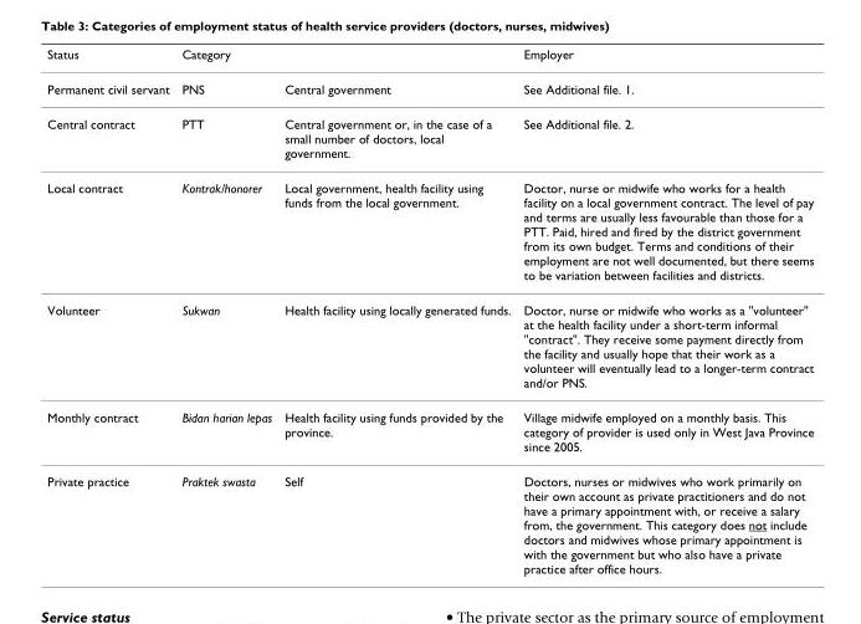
<table><thead><tr><td>Status</td><td>Category</td><td></td><td>Employer</td></tr></thead><tbody><tr><td>Permanent civil servant</td><td>PNS</td><td>Central government</td><td>See Additional file. 1.</td></tr><tr><td>Central contract</td><td>PTT</td><td>Central government or, in the case of a small number of doctors, local government.</td><td>See Additional file. 2.</td></tr><tr><td>Local contract</td><td>Kontrak/honorer</td><td>Local government, health facility using funds from the local government.</td><td>Doctor, nurse or midwife who works for a health facility on a local government contract. The level of pay and terms are usually less favourable than those for a PTT. Paid, hired and fired by the district government from its own budget. Terms and conditions of their employment are not well documented, but there seems to be variation between facilities and districts.</td></tr><tr><td>Volunteer</td><td>Sukwan</td><td>Health facility using locally generated funds.</td><td>Doctor, nurse or midwife who works as a &quot;volunteer&quot; at the health facility under a short-term informal &quot;contract&quot;. They receive some payment directly from the facility and usually hope that their work as a volunteer will eventually lead to a longer-term contract and/or PNS.</td></tr><tr><td>Monthly contract</td><td>Bidan harian lepas</td><td>Health facility using funds provided by the province.</td><td>Village midwife employed on a monthly basis. This category of provider is used only in West Java Province since 2005.</td></tr><tr><td>Private practice</td><td>Praktek swasta</td><td>Self</td><td>Doctors, nurses or midwives who work primarily on their own account as private practitioners and do not have a primary appointment with, or receive a salary from, the government. This category does not include doctors and midwives whose primary appointment is with the government but who also have a private practice after office hours.</td></tr></tbody></table>